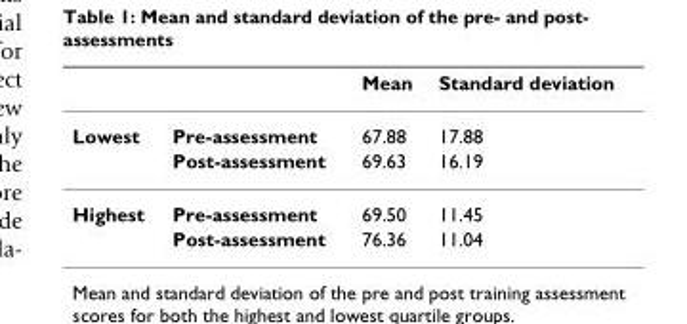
<table><thead><tr><td></td><td></td><td>Mean</td><td>Standard deviation</td></tr></thead><tbody><tr><td rowspan="2">Lowest</td><td>Pre-assessment</td><td>67.88</td><td>17.88</td></tr><tr><td>Post-assessment</td><td>69.63</td><td>16.19</td></tr><tr><td rowspan="2">Highest</td><td>Pre-assessment</td><td>69.50</td><td>11.45</td></tr><tr><td>Post-assessment</td><td>76.36</td><td>11.04</td></tr></tbody></table>